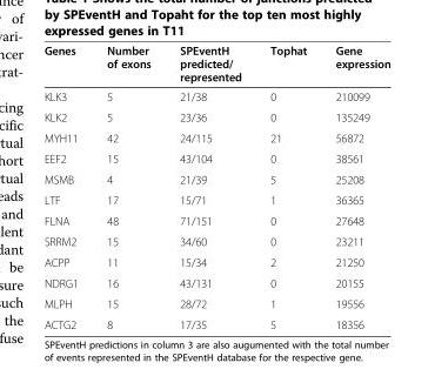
<table><thead><tr><td>Genes</td><td>Number of exons</td><td>SPEventH predicted/ represented</td><td>Tophat</td><td>Gene expression</td></tr></thead><tbody><tr><td>KLK3</td><td>5</td><td>21/38</td><td>0</td><td>210099</td></tr><tr><td>KLK2</td><td>5</td><td>23/36</td><td>0</td><td>135249</td></tr><tr><td>MYH11</td><td>42</td><td>24/115</td><td>21</td><td>56872</td></tr><tr><td>EEF2</td><td>15</td><td>43/104</td><td>0</td><td>38561</td></tr><tr><td>MSMB</td><td>4</td><td>21/39</td><td>5</td><td>25208</td></tr><tr><td>LTF</td><td>17</td><td>15/71</td><td>1</td><td>36365</td></tr><tr><td>FLNA</td><td>48</td><td>71/151</td><td>0</td><td>27648</td></tr><tr><td>SRRM2</td><td>15</td><td>34/60</td><td>0</td><td>23211</td></tr><tr><td>ACPP</td><td>11</td><td>15/34</td><td>2</td><td>21250</td></tr><tr><td>NDRG1</td><td>16</td><td>43/131</td><td>0</td><td>20155</td></tr><tr><td>MLPH</td><td>15</td><td>28/72</td><td>1</td><td>19556</td></tr><tr><td>ACTG2</td><td>8</td><td>17/35</td><td>5</td><td>18356</td></tr></tbody></table>